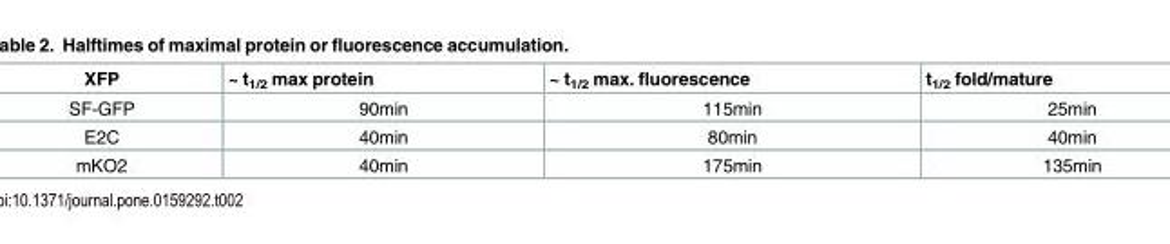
<table><thead><tr><td>XFP</td><td>~ t<sub>1/2</sub> max protein</td><td>~ t<sub>1/2</sub> max. fluorescence</td><td>t<sub>1/2</sub> fold/mature</td></tr></thead><tbody><tr><td>SF-GFP</td><td>90min</td><td>115min</td><td>25min</td></tr><tr><td>E2C</td><td>40min</td><td>80min</td><td>40min</td></tr><tr><td>mKO2</td><td>40min</td><td>175min</td><td>135min</td></tr></tbody></table>